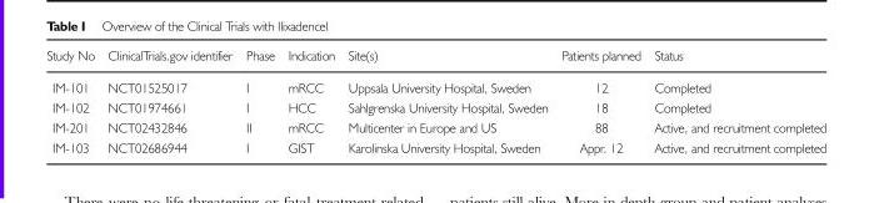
<table><thead><tr><td>Study No</td><td>ClinicalTrials.gov identifier</td><td>Phase</td><td>Indication</td><td>Site(s)</td><td>Patients planned</td><td>Status</td></tr></thead><tbody><tr><td>IM-101</td><td>NCT01525017</td><td>I</td><td>mRCC</td><td>Uppsala University Hospital, Sweden</td><td>12</td><td>Completed</td></tr><tr><td>IM-102</td><td>NCT01974661</td><td>I</td><td>HCC</td><td>Sahlgrenska University Hospital, Sweden</td><td>18</td><td>Completed</td></tr><tr><td>IM-201</td><td>NCT02432846</td><td>II</td><td>mRCC</td><td>Multicenter in Europe and US</td><td>88</td><td>Active, and recruitment completed</td></tr><tr><td>IM-103</td><td>NCT02686944</td><td>I</td><td>GIST</td><td>Karolinska University Hospital, Sweden</td><td>Appr. 12</td><td>Active, and recruitment completed</td></tr></tbody></table>